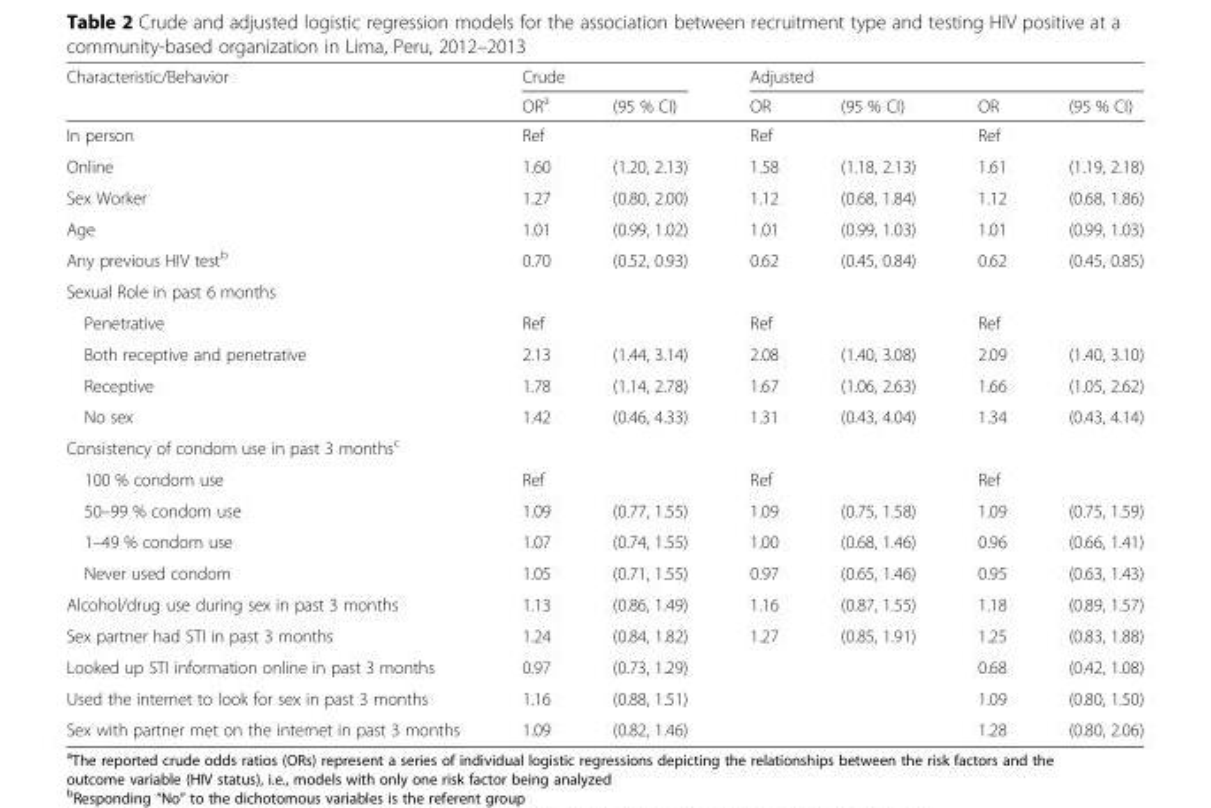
<table><thead><tr><td rowspan="2">Characteristic/Behavior</td><td colspan="2">Crude</td><td colspan="4">Adjusted</td></tr><tr><td>OR<sup>a</sup></td><td>(95 % CI)</td><td>OR</td><td>(95 % CI)</td><td>OR</td><td>(95 % CI)</td></tr></thead><tbody><tr><td>In person</td><td>Ref</td><td></td><td>Ref</td><td></td><td>Ref</td><td></td></tr><tr><td>Online</td><td>1.60</td><td>(1.20, 2.13)</td><td>1.58</td><td>(1.18, 2.13)</td><td>1.61</td><td>(1.19, 2.18)</td></tr><tr><td>Sex Worker</td><td>1.27</td><td>(0.80, 2.00)</td><td>1.12</td><td>(0.68, 1.84)</td><td>1.12</td><td>(0.68, 1.86)</td></tr><tr><td>Age</td><td>1.01</td><td>(0.99, 1.02)</td><td>1.01</td><td>(0.99, 1.03)</td><td>1.01</td><td>(0.99, 1.03)</td></tr><tr><td>Any previous HIV test<sup>b</sup></td><td>0.70</td><td>(0.52, 0.93)</td><td>0.62</td><td>(0.45, 0.84)</td><td>0.62</td><td>(0.45, 0.85)</td></tr><tr><td colspan="7">Sexual Role in past 6 months</td></tr><tr><td>Penetrative</td><td>Ref</td><td></td><td>Ref</td><td></td><td>Ref</td><td></td></tr><tr><td>Both receptive and penetrative</td><td>2.13</td><td>(1.44, 3.14)</td><td>2.08</td><td>(1.40, 3.08)</td><td>2.09</td><td>(1.40, 3.10)</td></tr><tr><td>Receptive</td><td>1.78</td><td>(1.14, 2.78)</td><td>1.67</td><td>(1.06, 2.63)</td><td>1.66</td><td>(1.05, 2.62)</td></tr><tr><td>No sex</td><td>1.42</td><td>(0.46, 4.33)</td><td>1.31</td><td>(0.43, 4.04)</td><td>1.34</td><td>(0.43, 4.14)</td></tr><tr><td colspan="7">Consistency of condom use in past 3 months<sup>c</sup></td></tr><tr><td>100 % condom use</td><td>Ref</td><td></td><td>Ref</td><td></td><td>Ref</td><td></td></tr><tr><td>50–99 % condom use</td><td>1.09</td><td>(0.77, 1.55)</td><td>1.09</td><td>(0.75, 1.58)</td><td>1.09</td><td>(0.75, 1.59)</td></tr><tr><td>1–49 % condom use</td><td>1.07</td><td>(0.74, 1.55)</td><td>1.00</td><td>(0.68, 1.46)</td><td>0.96</td><td>(0.66, 1.41)</td></tr><tr><td>Never used condom</td><td>1.05</td><td>(0.71, 1.55)</td><td>0.97</td><td>(0.65, 1.46)</td><td>0.95</td><td>(0.63, 1.43)</td></tr><tr><td>Alcohol/drug use during sex in past 3 months</td><td>1.13</td><td>(0.86, 1.49)</td><td>1.16</td><td>(0.87, 1.55)</td><td>1.18</td><td>(0.89, 1.57)</td></tr><tr><td>Sex partner had STI in past 3 months</td><td>1.24</td><td>(0.84, 1.82)</td><td>1.27</td><td>(0.85, 1.91)</td><td>1.25</td><td>(0.83, 1.88)</td></tr><tr><td>Looked up STI information online in past 3 months</td><td>0.97</td><td>(0.73, 1.29)</td><td></td><td></td><td>0.68</td><td>(0.42, 1.08)</td></tr><tr><td>Used the internet to look for sex in past 3 months</td><td>1.16</td><td>(0.88, 1.51)</td><td></td><td></td><td>1.09</td><td>(0.80, 1.50)</td></tr><tr><td>Sex with partner met on the internet in past 3 months</td><td>1.09</td><td>(0.82, 1.46)</td><td></td><td></td><td>1.28</td><td>(0.80, 2.06)</td></tr></tbody></table>